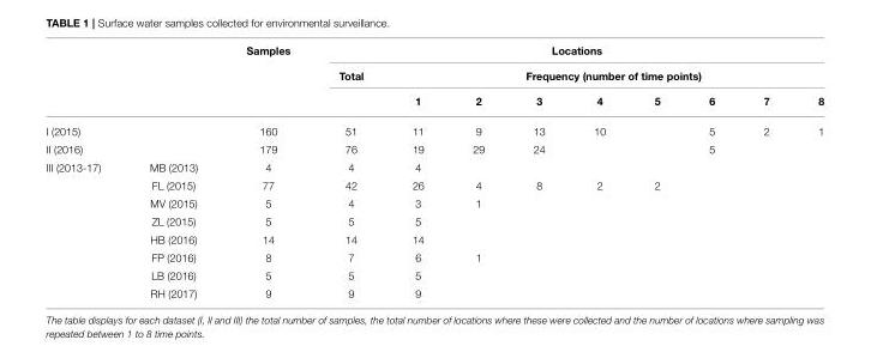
<table><thead><tr><td rowspan="3"></td><td rowspan="3"></td><td rowspan="3">Samples</td><td colspan="9">Locations</td></tr><tr><td rowspan="2">Total</td><td colspan="8">Frequency (number of time points)</td></tr><tr><td>1</td><td>2</td><td>3</td><td>4</td><td>5</td><td>6</td><td>7</td><td>8</td></tr></thead><tbody><tr><td colspan="2">I (2015)</td><td>160</td><td>51</td><td>11</td><td>9</td><td>13</td><td>10</td><td></td><td>5</td><td>2</td><td>1</td></tr><tr><td colspan="2">II (2016)</td><td>179</td><td>76</td><td>19</td><td>29</td><td>24</td><td></td><td></td><td>5</td><td></td><td></td></tr><tr><td rowspan="8">III (2013-17)</td><td>MB (2013)</td><td>4</td><td>4</td><td>4</td><td></td><td></td><td></td><td></td><td></td><td></td><td></td></tr><tr><td>FL (2015)</td><td>77</td><td>42</td><td>26</td><td>4</td><td>8</td><td>2</td><td>2</td><td></td><td></td><td></td></tr><tr><td>MV (2015)</td><td>5</td><td>4</td><td>3</td><td>1</td><td></td><td></td><td></td><td></td><td></td><td></td></tr><tr><td>ZL (2015)</td><td>5</td><td>5</td><td>5</td><td></td><td></td><td></td><td></td><td></td><td></td><td></td></tr><tr><td>HB (2016)</td><td>14</td><td>14</td><td>14</td><td></td><td></td><td></td><td></td><td></td><td></td><td></td></tr><tr><td>FP (2016)</td><td>8</td><td>7</td><td>6</td><td>1</td><td></td><td></td><td></td><td></td><td></td><td></td></tr><tr><td>LB (2016)</td><td>5</td><td>5</td><td>5</td><td></td><td></td><td></td><td></td><td></td><td></td><td></td></tr><tr><td>RH (2017)</td><td>9</td><td>9</td><td>9</td><td></td><td></td><td></td><td></td><td></td><td></td><td></td></tr></tbody></table>